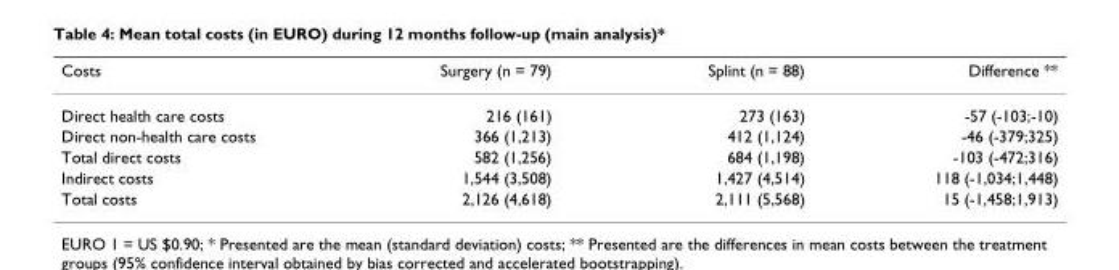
<table><thead><tr><td>Costs</td><td>Surgery (n = 79)</td><td>Splint (n = 88)</td><td>Difference **</td></tr></thead><tbody><tr><td>Direct health care costs</td><td>216 (161)</td><td>273 (163)</td><td>-57 (-103;-10)</td></tr><tr><td>Direct non-health care costs</td><td>366 (1,213)</td><td>412 (1,124)</td><td>-46 (-379;325)</td></tr><tr><td>Total direct costs</td><td>582 (1,256)</td><td>684 (1,198)</td><td>-103 (-472;316)</td></tr><tr><td>Indirect costs</td><td>1,544 (3,508)</td><td>1,427 (4,514)</td><td>118 (-1,034;1,448)</td></tr><tr><td>Total costs</td><td>2,126 (4,618)</td><td>2,111 (5,568)</td><td>15 (-1,458;1,913)</td></tr></tbody></table>